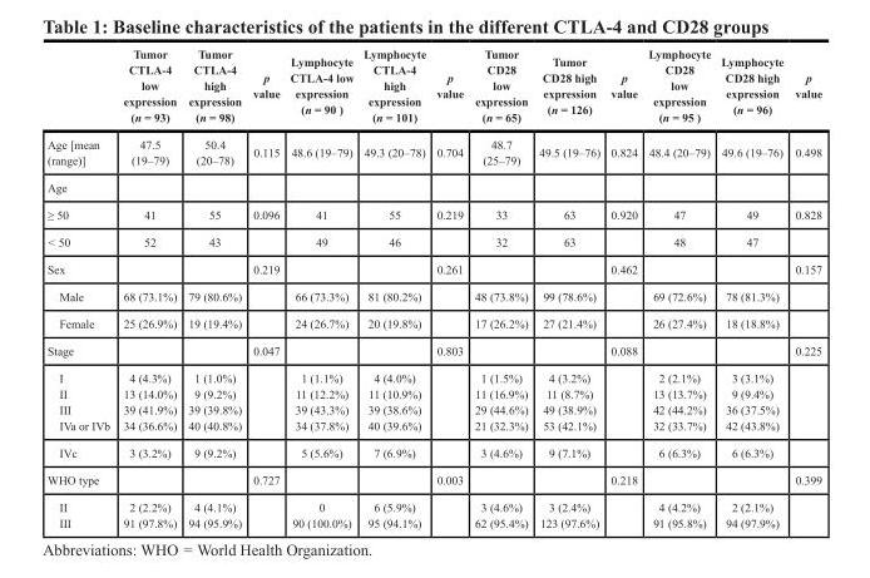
<table><thead><tr><td></td><td>Tumor CTLA-4 low expression (n = 93)</td><td>Tumor CTLA-4 high expression (n = 98)</td><td>p value</td><td>Lymphocyte CTLA-4 low expression (n = 90 )</td><td>Lymphocyte CTLA-4 high expression (n = 101)</td><td>p value</td><td>Tumor CD28 low expression (n = 65)</td><td>Tumor CD28 high expression (n = 126)</td><td>p value</td><td>Lymphocyte CD28 low expression (n = 95 )</td><td>Lymphocyte CD28 high expression (n = 96)</td><td>p value</td></tr></thead><tbody><tr><td>Age [mean (range)]</td><td>47.5 (19–79)</td><td>50.4 (20–78)</td><td>0.115</td><td>48.6 (19–79)</td><td>49.3 (20–78)</td><td>0.704</td><td>48.7 (25–79)</td><td>49.5 (19–76)</td><td>0.824</td><td>48.4 (20–79)</td><td>49.6 (19–76)</td><td>0.498</td></tr><tr><td colspan="13">Age</td></tr><tr><td>≥ 50</td><td>41</td><td>55</td><td>0.096</td><td>41</td><td>55</td><td>0.219</td><td>33</td><td>63</td><td>0.920</td><td>47</td><td>49</td><td>0.828</td></tr><tr><td>&lt; 50</td><td>52</td><td>43</td><td></td><td>49</td><td>46</td><td></td><td>32</td><td>63</td><td></td><td>48</td><td>47</td><td></td></tr><tr><td>Sex</td><td></td><td></td><td>0.219</td><td></td><td></td><td>0.261</td><td></td><td></td><td>0.462</td><td></td><td></td><td>0.157</td></tr><tr><td>Male</td><td>68 (73.1%)</td><td>79 (80.6%)</td><td></td><td>66 (73.3%)</td><td>81 (80.2%)</td><td></td><td>48 (73.8%)</td><td>99 (78.6%)</td><td></td><td>69 (72.6%)</td><td>78 (81.3%)</td><td></td></tr><tr><td>Female</td><td>25 (26.9%)</td><td>19 (19.4%)</td><td></td><td>24 (26.7%)</td><td>20 (19.8%)</td><td></td><td>17 (26.2%)</td><td>27 (21.4%)</td><td></td><td>26 (27.4%)</td><td>18 (18.8%)</td><td></td></tr><tr><td>Stage</td><td></td><td></td><td>0.047</td><td></td><td></td><td>0.803</td><td></td><td></td><td>0.088</td><td></td><td></td><td>0.225</td></tr><tr><td>I II III IVa or IVb</td><td>4 (4.3%) 13 (14.0%) 39 (41.9%) 34 (36.6%)</td><td>1 (1.0%) 9 (9.2%) 39 (39.8%) 40 (40.8%)</td><td></td><td>1 (1.1%) 11 (12.2%) 39 (43.3%) 34 (37.8%)</td><td>4 (4.0%) 11 (10.9%) 39 (38.6%) 40 (39.6%)</td><td></td><td>1 (1.5%) 11 (16.9%) 29 (44.6%) 21 (32.3%)</td><td>4 (3.2%) 11 (8.7%) 49 (38.9%) 53 (42.1%)</td><td></td><td>2 (2.1%) 13 (13.7%) 42 (44.2%) 32 (33.7%)</td><td>3 (3.1%) 9 (9.4%) 36 (37.5%) 42 (43.8%)</td><td></td></tr><tr><td>IVc</td><td>3 (3.2%)</td><td>9 (9.2%)</td><td></td><td>5 (5.6%)</td><td>7 (6.9%)</td><td></td><td>3 (4.6%)</td><td>9 (7.1%)</td><td></td><td>6 (6.3%)</td><td>6 (6.3%)</td><td></td></tr><tr><td>WHO type</td><td></td><td></td><td>0.727</td><td></td><td></td><td>0.003</td><td></td><td></td><td>0.218</td><td></td><td></td><td>0.399</td></tr><tr><td>II III</td><td>2 (2.2%) 91 (97.8%)</td><td>4 (4.1%) 94 (95.9%)</td><td></td><td>0 90 (100.0%)</td><td>6 (5.9%) 95 (94.1%)</td><td></td><td>3 (4.6%) 62 (95.4%)</td><td>3 (2.4%) 123 (97.6%)</td><td></td><td>4 (4.2%) 91 (95.8%)</td><td>2 (2.1%) 94 (97.9%)</td><td></td></tr></tbody></table>